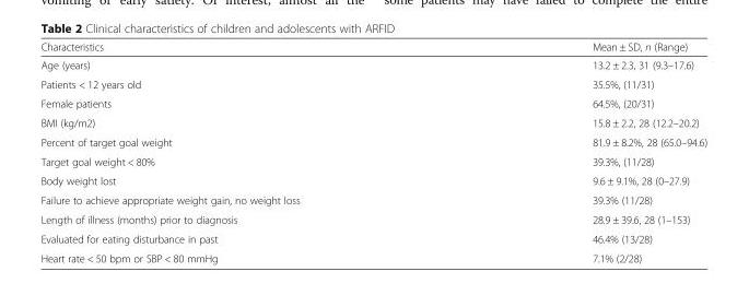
<table><thead><tr><td>Characteristics</td><td>Mean ± SD, n (Range)</td></tr></thead><tbody><tr><td>Age (years)</td><td>13.2 ± 2.3, 31 (9.3–17.6)</td></tr><tr><td>Patients &lt; 12 years old</td><td>35.5%, (11/31)</td></tr><tr><td>Female patients</td><td>64.5%, (20/31)</td></tr><tr><td>BMI (kg/m2)</td><td>15.8 ± 2.2, 28 (12.2–20.2)</td></tr><tr><td>Percent of target goal weight</td><td>81.9 ± 8.2%, 28 (65.0–94.6)</td></tr><tr><td>Target goal weight &lt; 80%</td><td>39.3%, (11/28)</td></tr><tr><td>Body weight lost</td><td>9.6 ± 9.1%, 28 (0–27.9)</td></tr><tr><td>Failure to achieve appropriate weight gain, no weight loss</td><td>39.3% (11/28)</td></tr><tr><td>Length of illness (months) prior to diagnosis</td><td>28.9 ± 39.6, 28 (1–153)</td></tr><tr><td>Evaluated for eating disturbance in past</td><td>46.4% (13/28)</td></tr><tr><td>Heart rate &lt; 50 bpm or SBP &lt; 80 mmHg</td><td>7.1% (2/28)</td></tr></tbody></table>